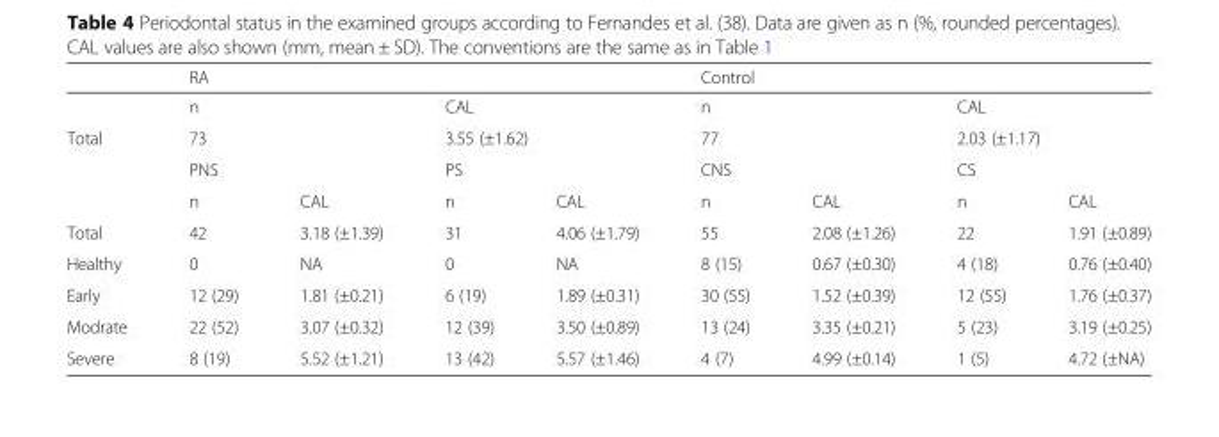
<table><thead><tr><td></td><td colspan="4">RA</td><td colspan="4">Control</td></tr></thead><tbody><tr><td></td><td colspan="2">n</td><td colspan="2">CAL</td><td colspan="2">n</td><td colspan="2">CAL</td></tr><tr><td rowspan="3">Total</td><td colspan="2">73</td><td colspan="2">3.55 (±1.62)</td><td colspan="2">77</td><td colspan="2">2.03 (±1.17)</td></tr><tr><td colspan="2">PNS</td><td colspan="2">PS</td><td colspan="2">CNS</td><td colspan="2">CS</td></tr><tr><td>n</td><td>CAL</td><td>n</td><td>CAL</td><td>n</td><td>CAL</td><td>n</td><td>CAL</td></tr><tr><td>Total</td><td>42</td><td>3.18 (±1.39)</td><td>31</td><td>4.06 (±1.79)</td><td>55</td><td>2.08 (±1.26)</td><td>22</td><td>1.91 (±0.89)</td></tr><tr><td>Healthy</td><td>0</td><td>NA</td><td>0</td><td>NA</td><td>8 (15)</td><td>0.67 (±0.30)</td><td>4 (18)</td><td>0.76 (±0.40)</td></tr><tr><td>Early</td><td>12 (29)</td><td>1.81 (±0.21)</td><td>6 (19)</td><td>1.89 (±0.31)</td><td>30 (55)</td><td>1.52 (±0.39)</td><td>12 (55)</td><td>1.76 (±0.37)</td></tr><tr><td>Modrate</td><td>22 (52)</td><td>3.07 (±0.32)</td><td>12 (39)</td><td>3.50 (±0.89)</td><td>13 (24)</td><td>3.35 (±0.21)</td><td>5 (23)</td><td>3.19 (±0.25)</td></tr><tr><td>Severe</td><td>8 (19)</td><td>5.52 (±1.21)</td><td>13 (42)</td><td>5.57 (±1.46)</td><td>4 (7)</td><td>4.99 (±0.14)</td><td>1 (5)</td><td>4.72 (±NA)</td></tr></tbody></table>